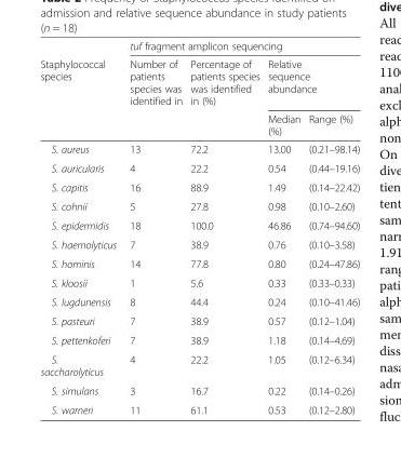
<table><thead><tr><td rowspan="3">Staphylococcal species</td><td colspan="4">tuf fragment amplicon sequencing</td></tr><tr><td rowspan="2">Number of patients species was identified in</td><td rowspan="2">Percentage of patients species was identified in (%)</td><td colspan="2">Relative sequence abundance</td></tr><tr><td>Median (%)</td><td>Range (%)</td></tr></thead><tbody><tr><td>S. aureus</td><td>13</td><td>72.2</td><td>13.00</td><td>(0.21–98.14)</td></tr><tr><td>S. auricularis</td><td>4</td><td>22.2</td><td>0.54</td><td>(0.44–19.16)</td></tr><tr><td>S. capitis</td><td>16</td><td>88.9</td><td>1.49</td><td>(0.14–22.42)</td></tr><tr><td>S. cohnii</td><td>5</td><td>27.8</td><td>0.98</td><td>(0.10–2.60)</td></tr><tr><td>S. epidermidis</td><td>18</td><td>100.0</td><td>46.86</td><td>(0.74–94.60)</td></tr><tr><td>S. haemolyticus</td><td>7</td><td>38.9</td><td>0.76</td><td>(0.10–3.58)</td></tr><tr><td>S. hominis</td><td>14</td><td>77.8</td><td>0.80</td><td>(0.24–47.86)</td></tr><tr><td>S. kloosii</td><td>1</td><td>5.6</td><td>0.33</td><td>(0.33–0.33)</td></tr><tr><td>S. lugdunensis</td><td>8</td><td>44.4</td><td>0.24</td><td>(0.10–41.46)</td></tr><tr><td>S. pasteuri</td><td>7</td><td>38.9</td><td>0.57</td><td>(0.12–1.04)</td></tr><tr><td>S. pettenkoferi</td><td>7</td><td>38.9</td><td>1.18</td><td>(0.14–4.69)</td></tr><tr><td>S. saccharolyticus</td><td>4</td><td>22.2</td><td>1.05</td><td>(0.12–6.34)</td></tr><tr><td>S. simulans</td><td>3</td><td>16.7</td><td>0.22</td><td>(0.14–0.26)</td></tr><tr><td>S. warneri</td><td>11</td><td>61.1</td><td>0.53</td><td>(0.12–2.80)</td></tr></tbody></table>